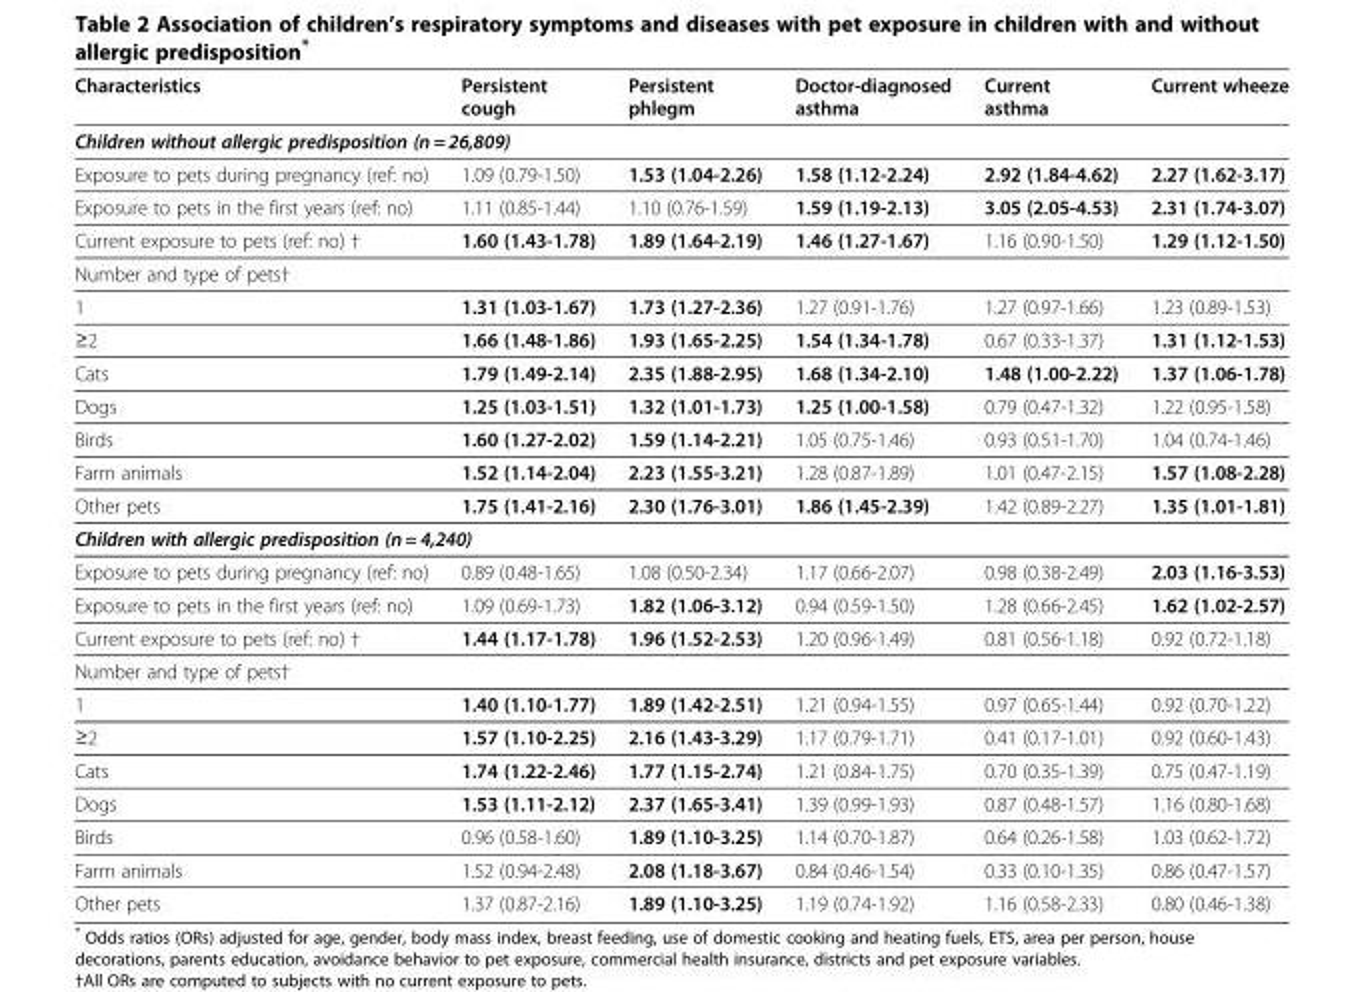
<table><thead><tr><td>Characteristics</td><td>Persistent cough</td><td>Persistent phlegm</td><td>Doctor-diagnosed asthma</td><td>Current asthma</td><td>Current wheeze</td></tr></thead><tbody><tr><td colspan="6">Children without allergic predisposition (n = 26,809)</td></tr><tr><td>Exposure to pets during pregnancy (ref: no)</td><td>1.09 (0.79-1.50)</td><td>1.53 (1.04-2.26)</td><td>1.58 (1.12-2.24)</td><td>2.92 (1.84-4.62)</td><td>2.27 (1.62-3.17)</td></tr><tr><td>Exposure to pets in the first years (ref: no)</td><td>1.11 (0.85-1.44)</td><td>1.10 (0.76-1.59)</td><td>1.59 (1.19-2.13)</td><td>3.05 (2.05-4.53)</td><td>2.31 (1.74-3.07)</td></tr><tr><td>Current exposure to pets (ref: no) †</td><td>1.60 (1.43-1.78)</td><td>1.89 (1.64-2.19)</td><td>1.46 (1.27-1.67)</td><td>1.16 (0.90-1.50)</td><td>1.29 (1.12-1.50)</td></tr><tr><td colspan="6">Number and type of pets†</td></tr><tr><td>1</td><td>1.31 (1.03-1.67)</td><td>1.73 (1.27-2.36)</td><td>1.27 (0.91-1.76)</td><td>1.27 (0.97-1.66)</td><td>1.23 (0.89-1.53)</td></tr><tr><td>≥2</td><td>1.66 (1.48-1.86)</td><td>1.93 (1.65-2.25)</td><td>1.54 (1.34-1.78)</td><td>0.67 (0.33-1.37)</td><td>1.31 (1.12-1.53)</td></tr><tr><td>Cats</td><td>1.79 (1.49-2.14)</td><td>2.35 (1.88-2.95)</td><td>1.68 (1.34-2.10)</td><td>1.48 (1.00-2.22)</td><td>1.37 (1.06-1.78)</td></tr><tr><td>Dogs</td><td>1.25 (1.03-1.51)</td><td>1.32 (1.01-1.73)</td><td>1.25 (1.00-1.58)</td><td>0.79 (0.47-1.32)</td><td>1.22 (0.95-1.58)</td></tr><tr><td>Birds</td><td>1.60 (1.27-2.02)</td><td>1.59 (1.14-2.21)</td><td>1.05 (0.75-1.46)</td><td>0.93 (0.51-1.70)</td><td>1.04 (0.74-1.46)</td></tr><tr><td>Farm animals</td><td>1.52 (1.14-2.04)</td><td>2.23 (1.55-3.21)</td><td>1.28 (0.87-1.89)</td><td>1.01 (0.47-2.15)</td><td>1.57 (1.08-2.28)</td></tr><tr><td>Other pets</td><td>1.75 (1.41-2.16)</td><td>2.30 (1.76-3.01)</td><td>1.86 (1.45-2.39)</td><td>1.42 (0.89-2.27)</td><td>1.35 (1.01-1.81)</td></tr><tr><td colspan="6">Children with allergic predisposition (n = 4,240)</td></tr><tr><td>Exposure to pets during pregnancy (ref: no)</td><td>0.89 (0.48-1.65)</td><td>1.08 (0.50-2.34)</td><td>1.17 (0.66-2.07)</td><td>0.98 (0.38-2.49)</td><td>2.03 (1.16-3.53)</td></tr><tr><td>Exposure to pets in the first years (ref: no)</td><td>1.09 (0.69-1.73)</td><td>1.82 (1.06-3.12)</td><td>0.94 (0.59-1.50)</td><td>1.28 (0.66-2.45)</td><td>1.62 (1.02-2.57)</td></tr><tr><td>Current exposure to pets (ref: no) †</td><td>1.44 (1.17-1.78)</td><td>1.96 (1.52-2.53)</td><td>1.20 (0.96-1.49)</td><td>0.81 (0.56-1.18)</td><td>0.92 (0.72-1.18)</td></tr><tr><td colspan="6">Number and type of pets†</td></tr><tr><td>1</td><td>1.40 (1.10-1.77)</td><td>1.89 (1.42-2.51)</td><td>1.21 (0.94-1.55)</td><td>0.97 (0.65-1.44)</td><td>0.92 (0.70-1.22)</td></tr><tr><td>≥2</td><td>1.57 (1.10-2.25)</td><td>2.16 (1.43-3.29)</td><td>1.17 (0.79-1.71)</td><td>0.41 (0.17-1.01)</td><td>0.92 (0.60-1.43)</td></tr><tr><td>Cats</td><td>1.74 (1.22-2.46)</td><td>1.77 (1.15-2.74)</td><td>1.21 (0.84-1.75)</td><td>0.70 (0.35-1.39)</td><td>0.75 (0.47-1.19)</td></tr><tr><td>Dogs</td><td>1.53 (1.11-2.12)</td><td>2.37 (1.65-3.41)</td><td>1.39 (0.99-1.93)</td><td>0.87 (0.48-1.57)</td><td>1.16 (0.80-1.68)</td></tr><tr><td>Birds</td><td>0.96 (0.58-1.60)</td><td>1.89 (1.10-3.25)</td><td>1.14 (0.70-1.87)</td><td>0.64 (0.26-1.58)</td><td>1.03 (0.62-1.72)</td></tr><tr><td>Farm animals</td><td>1.52 (0.94-2.48)</td><td>2.08 (1.18-3.67)</td><td>0.84 (0.46-1.54)</td><td>0.33 (0.10-1.35)</td><td>0.86 (0.47-1.57)</td></tr><tr><td>Other pets</td><td>1.37 (0.87-2.16)</td><td>1.89 (1.10-3.25)</td><td>1.19 (0.74-1.92)</td><td>1.16 (0.58-2.33)</td><td>0.80 (0.46-1.38)</td></tr></tbody></table>